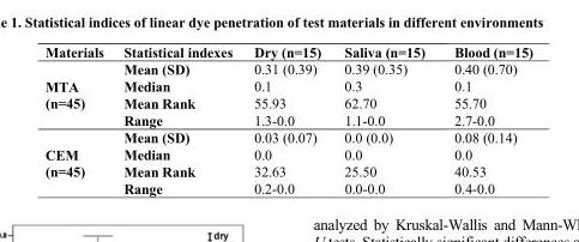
<table><thead><tr><td>Materials</td><td>Statistical indexes</td><td>Dry (n=15)</td><td>Saliva (n=15)</td><td>Blood (n=15)</td></tr></thead><tbody><tr><td rowspan="4">MTA (n=45)</td><td>Mean (SD)</td><td>0.31 (0.39)</td><td>0.39 (0.35)</td><td>0.40 (0.70)</td></tr><tr><td>Median</td><td>0.1</td><td>0.3</td><td>0.1</td></tr><tr><td>Mean Rank</td><td>55.93</td><td>62.70</td><td>55.70</td></tr><tr><td>Range</td><td>1.3-0.0</td><td>1.1-0.0</td><td>2.7-0.0</td></tr><tr><td rowspan="4">CEM (n=45)</td><td>Mean (SD)</td><td>0.03 (0.07)</td><td>0.0 (0.0)</td><td>0.08 (0.14)</td></tr><tr><td>Median</td><td>0.0</td><td>0.0</td><td>0.0</td></tr><tr><td>Mean Rank</td><td>32.63</td><td>25.50</td><td>40.53</td></tr><tr><td>Range</td><td>0.2-0.0</td><td>0.0-0.0</td><td>0.4-0.0</td></tr></tbody></table>